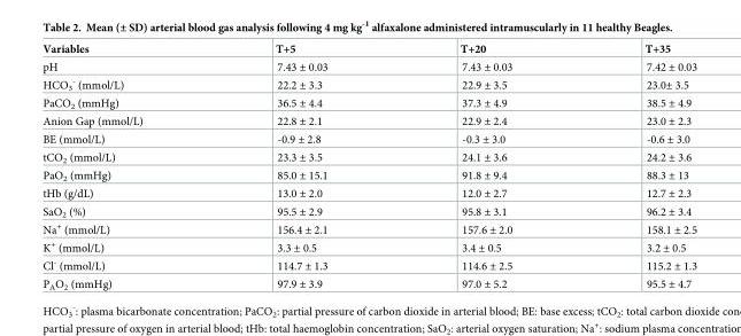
<table><thead><tr><td>Variables</td><td>T+5</td><td>T+20</td><td>T+35</td></tr></thead><tbody><tr><td>pH</td><td>7.43 ± 0.03</td><td>7.43 ± 0.03</td><td>7.42 ± 0.03</td></tr><tr><td>HCO<sub>3</sub> <sup>-</sup> (mmol/L)</td><td>22.2 ± 3.3</td><td>22.9 ± 3.5</td><td>23.0± 3.5</td></tr><tr><td>PaCO<sub>2</sub> (mmHg)</td><td>36.5 ± 4.4</td><td>37.3 ± 4.9</td><td>38.5 ± 4.9</td></tr><tr><td>Anion Gap (mmol/L)</td><td>22.8 ± 2.1</td><td>22.9 ± 2.4</td><td>23.0 ± 2.3</td></tr><tr><td>BE (mmol/L)</td><td>-0.9 ± 2.8</td><td>-0.3 ± 3.0</td><td>-0.6 ± 3.0</td></tr><tr><td>tCO<sub>2</sub> (mmol/L)</td><td>23.3 ± 3.5</td><td>24.1 ± 3.6</td><td>24.2 ± 3.6</td></tr><tr><td>PaO<sub>2</sub> (mmHg)</td><td>85.0 ± 15.1</td><td>91.8 ± 9.4</td><td>88.3 ± 13</td></tr><tr><td>tHb (g/dL)</td><td>13.0 ± 2.0</td><td>12.0 ± 2.7</td><td>12.7 ± 2.3</td></tr><tr><td>SaO<sub>2</sub> (%)</td><td>95.5 ± 2.9</td><td>95.8 ± 3.1</td><td>96.2 ± 3.4</td></tr><tr><td>Na<sup>+</sup> (mmol/L)</td><td>156.4 ± 2.1</td><td>157.6 ± 2.0</td><td>158.1 ± 2.5</td></tr><tr><td>K<sup>+</sup> (mmol/L)</td><td>3.3 ± 0.5</td><td>3.4 ± 0.5</td><td>3.2 ± 0.5</td></tr><tr><td>Cl<sup>-</sup> (mmol/L)</td><td>114.7 ± 1.3</td><td>114.6 ± 2.5</td><td>115.2 ± 1.3</td></tr><tr><td>P<sub>A</sub>O<sub>2</sub> (mmHg)</td><td>97.9 ± 3.9</td><td>97.0 ± 5.2</td><td>95.5 ± 4.7</td></tr></tbody></table>